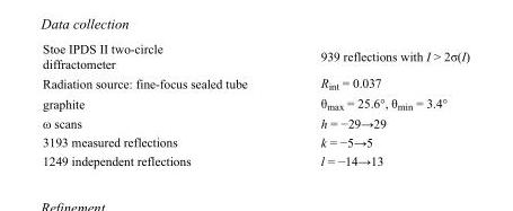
<table><tbody><tr><td>Stoe IPDS II two-circle diffractometer</td><td>939 reflections with I &gt; 2σ(I)</td></tr><tr><td>Radiation source: fine-focus sealed tube</td><td>R<sub>int</sub> = 0.037</td></tr><tr><td>graphite</td><td>θ<sub>max</sub> = 25.6°, θ<sub>min</sub> = 3.4°</td></tr><tr><td>ω scans</td><td>h = −29→29</td></tr><tr><td>3193 measured reflections</td><td>k = −5→5</td></tr><tr><td>1249 independent reflections</td><td>l = −14→13</td></tr></tbody></table>